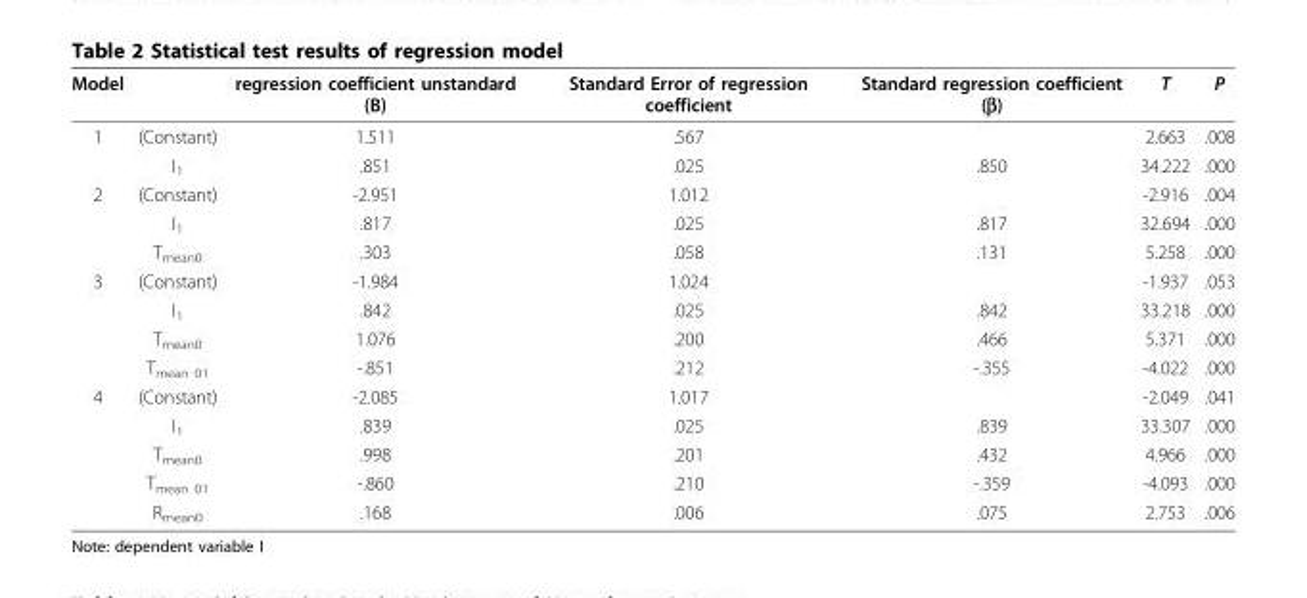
<table><thead><tr><td>Model</td><td></td><td>regression coefficient unstandard (B)</td><td>Standard Error of regression coefficient</td><td>Standard regression coefficient (β)</td><td>T</td><td>P</td></tr></thead><tbody><tr><td rowspan="2">1</td><td>(Constant)</td><td>1.511</td><td>.567</td><td></td><td>2.663</td><td>.008</td></tr><tr><td>I<sub>1</sub></td><td>.851</td><td>.025</td><td>.850</td><td>34.222</td><td>.000</td></tr><tr><td rowspan="3">2</td><td>(Constant)</td><td>-2.951</td><td>1.012</td><td></td><td>-2.916</td><td>.004</td></tr><tr><td>I<sub>1</sub></td><td>.817</td><td>.025</td><td>.817</td><td>32.694</td><td>.000</td></tr><tr><td>T<sub>mean0</sub></td><td>.303</td><td>.058</td><td>.131</td><td>5.258</td><td>.000</td></tr><tr><td rowspan="4">3</td><td>(Constant)</td><td>-1.984</td><td>1.024</td><td></td><td>-1.937</td><td>.053</td></tr><tr><td>I<sub>1</sub></td><td>.842</td><td>.025</td><td>.842</td><td>33.218</td><td>.000</td></tr><tr><td>T<sub>mean0</sub></td><td>1.076</td><td>.200</td><td>.466</td><td>5.371</td><td>.000</td></tr><tr><td>T<sub>mean 01</sub></td><td>-.851</td><td>.212</td><td>-.355</td><td>-4.022</td><td>.000</td></tr><tr><td rowspan="5">4</td><td>(Constant)</td><td>-2.085</td><td>1.017</td><td></td><td>-2.049</td><td>.041</td></tr><tr><td>I<sub>1</sub></td><td>.839</td><td>.025</td><td>.839</td><td>33.307</td><td>.000</td></tr><tr><td>T<sub>mean0</sub></td><td>.998</td><td>.201</td><td>.432</td><td>4.966</td><td>.000</td></tr><tr><td>T<sub>mean 01</sub></td><td>-.860</td><td>.210</td><td>-.359</td><td>-4.093</td><td>.000</td></tr><tr><td>R<sub>mean0</sub></td><td>.168</td><td>.006</td><td>.075</td><td>2.753</td><td>.006</td></tr></tbody></table>